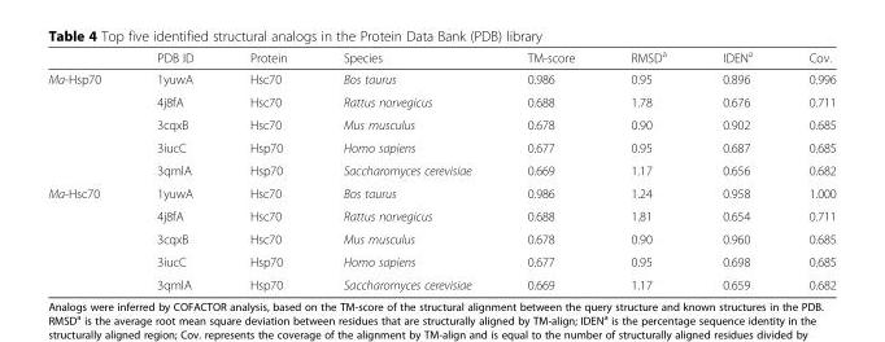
<table><thead><tr><td></td><td>PDB ID</td><td>Protein</td><td>Species</td><td>TM-score</td><td>RMSD<sup>a</sup></td><td>IDEN<sup>a</sup></td><td>Cov.</td></tr></thead><tbody><tr><td rowspan="5">Ma-Hsp70</td><td>1yuwA</td><td>Hsc70</td><td>Bos taurus</td><td>0.986</td><td>0.95</td><td>0.896</td><td>0.996</td></tr><tr><td>4j8fA</td><td>Hsc70</td><td>Rattus norvegicus</td><td>0.688</td><td>1.78</td><td>0.676</td><td>0.711</td></tr><tr><td>3cqxB</td><td>Hsc70</td><td>Mus musculus</td><td>0.678</td><td>0.90</td><td>0.902</td><td>0.685</td></tr><tr><td>3iucC</td><td>Hsp70</td><td>Homo sapiens</td><td>0.677</td><td>0.95</td><td>0.687</td><td>0.685</td></tr><tr><td>3qmlA</td><td>Hsp70</td><td>Saccharomyces cerevisiae</td><td>0.669</td><td>1.17</td><td>0.656</td><td>0.682</td></tr><tr><td rowspan="5">Ma-Hsc70</td><td>1yuwA</td><td>Hsc70</td><td>Bos taurus</td><td>0.986</td><td>1.24</td><td>0.958</td><td>1.000</td></tr><tr><td>4j8fA</td><td>Hsc70</td><td>Rattus norvegicus</td><td>0.688</td><td>1.81</td><td>0.654</td><td>0.711</td></tr><tr><td>3cqxB</td><td>Hsc70</td><td>Mus musculus</td><td>0.678</td><td>0.90</td><td>0.960</td><td>0.685</td></tr><tr><td>3iucC</td><td>Hsp70</td><td>Homo sapiens</td><td>0.677</td><td>0.95</td><td>0.698</td><td>0.685</td></tr><tr><td>3qmlA</td><td>Hsp70</td><td>Saccharomyces cerevisiae</td><td>0.669</td><td>1.17</td><td>0.659</td><td>0.682</td></tr></tbody></table>